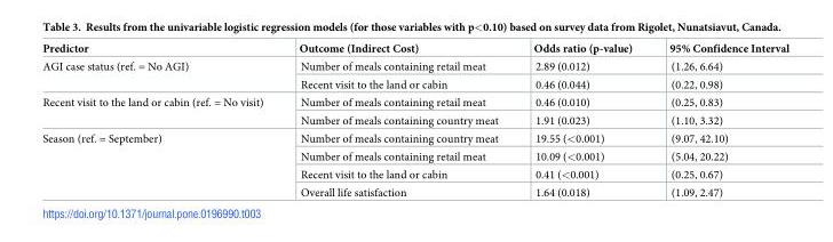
<table><thead><tr><td>Predictor</td><td>Outcome (Indirect Cost)</td><td>Odds ratio (p-value)</td><td>95% Confidence Interval</td></tr></thead><tbody><tr><td rowspan="2">AGI case status (ref. = No AGI)</td><td>Number of meals containing retail meat</td><td>2.89 (0.012)</td><td>(1.26, 6.64)</td></tr><tr><td>Recent visit to the land or cabin</td><td>0.46 (0.044)</td><td>(0.22, 0.98)</td></tr><tr><td rowspan="2">Recent visit to the land or cabin (ref. = No visit)</td><td>Number of meals containing retail meat</td><td>0.46 (0.010)</td><td>(0.25, 0.83)</td></tr><tr><td>Number of meals containing country meat</td><td>1.91 (0.023)</td><td>(1.10, 3.32)</td></tr><tr><td rowspan="4">Season (ref. = September)</td><td>Number of meals containing country meat</td><td>19.55 (&lt;0.001)</td><td>(9.07, 42.10)</td></tr><tr><td>Number of meals containing retail meat</td><td>10.09 (&lt;0.001)</td><td>(5.04, 20.22)</td></tr><tr><td>Recent visit to the land or cabin</td><td>0.41 (&lt;0.001)</td><td>(0.25, 0.67)</td></tr><tr><td>Overall life satisfaction</td><td>1.64 (0.018)</td><td>(1.09, 2.47)</td></tr></tbody></table>